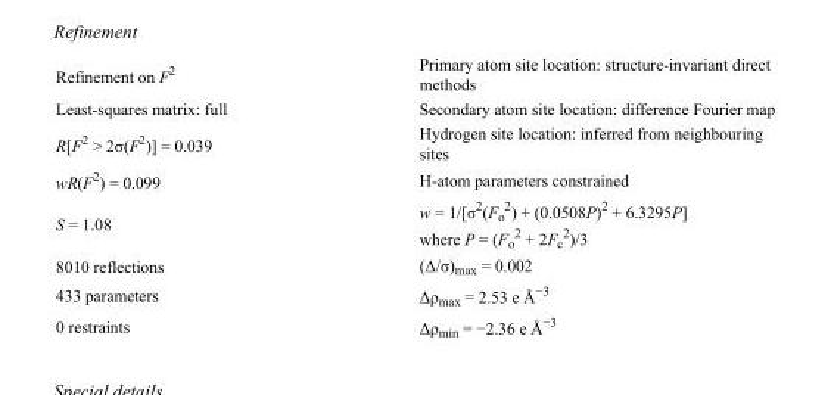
<table><tbody><tr><td>Refinement on F<sup>2</sup></td><td>Primary atom site location: structure-invariant direct methods</td></tr><tr><td>Least-squares matrix: full</td><td>Secondary atom site location: difference Fourier map</td></tr><tr><td>R[F<sup>2</sup> &gt; 2σ(F<sup>2</sup>)] = 0.039</td><td>Hydrogen site location: inferred from neighbouring sites</td></tr><tr><td>wR(F<sup>2</sup>) = 0.099</td><td>H-atom parameters constrained</td></tr><tr><td>S = 1.08</td><td>w = 1/[σ<sup>2</sup>(F<sub>o</sub> <sup>2</sup>) + (0.0508P)<sup>2</sup> + 6.3295P] where P = (F<sub>o</sub> <sup>2</sup> + 2F<sub>c</sub> <sup>2</sup>)/3</td></tr><tr><td>8010 reflections</td><td>(Δ/σ)<sub>max</sub> = 0.002</td></tr><tr><td>433 parameters</td><td>Δρ<sub>max</sub> = 2.53 e Å<sup>−3</sup></td></tr><tr><td>0 restraints</td><td>Δρ<sub>min</sub> = −2.36 e Å<sup>−3</sup></td></tr></tbody></table>